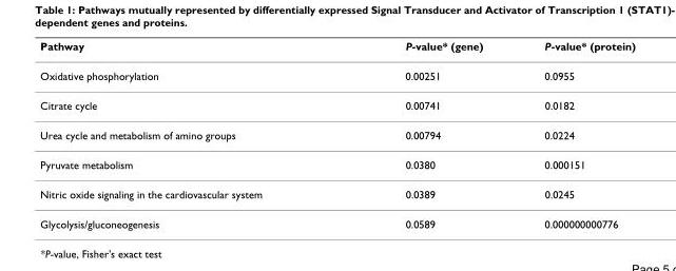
<table><thead><tr><td>Pathway</td><td>P-value* (gene)</td><td>P-value* (protein)</td></tr></thead><tbody><tr><td>Oxidative phosphorylation</td><td>0.00251</td><td>0.0955</td></tr><tr><td>Citrate cycle</td><td>0.00741</td><td>0.0182</td></tr><tr><td>Urea cycle and metabolism of amino groups</td><td>0.00794</td><td>0.0224</td></tr><tr><td>Pyruvate metabolism</td><td>0.0380</td><td>0.000151</td></tr><tr><td>Nitric oxide signaling in the cardiovascular system</td><td>0.0389</td><td>0.0245</td></tr><tr><td>Glycolysis/gluconeogenesis</td><td>0.0589</td><td>0.000000000776</td></tr></tbody></table>